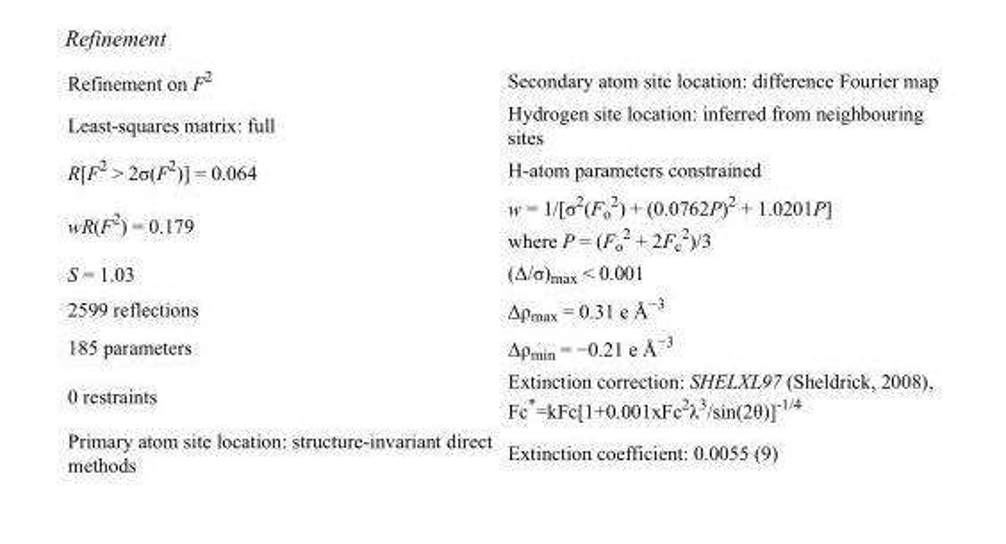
<table><tbody><tr><td>Refinement on F<sup>2</sup></td><td>Secondary atom site location: difference Fourier map</td></tr><tr><td>Least-squares matrix: full</td><td>Hydrogen site location: inferred from neighbouring sites</td></tr><tr><td>R[F<sup>2</sup> &gt; 2σ(F<sup>2</sup>)] = 0.064</td><td>H-atom parameters constrained</td></tr><tr><td>wR(F<sup>2</sup>) = 0.179</td><td>w = 1/[σ<sup>2</sup>(F<sub>o</sub> <sup>2</sup>) + (0.0762P)<sup>2</sup> + 1.0201P] where P = (F<sub>o</sub> <sup>2</sup> + 2F<sub>c</sub> <sup>2</sup>)/3</td></tr><tr><td>S = 1.03</td><td>(Δ/σ)<sub>max</sub> &lt; 0.001</td></tr><tr><td>2599 reflections</td><td>Δρ<sub>max</sub> = 0.31 e Å<sup>−3</sup></td></tr><tr><td>185 parameters</td><td>Δρmin = −0.21 e Å−3</td></tr><tr><td>0 restraints</td><td>Extinction correction: SHELXL97 (Sheldrick, 2008), Fc*=kFc[1+0.001xFc<sup>2</sup>λ<sup>3</sup>/sin(2θ)]<sup>-1/4</sup></td></tr><tr><td>Primary atom site location: structure-invariant direct methods</td><td>Extinction coefficient: 0.0055 (9)</td></tr></tbody></table>